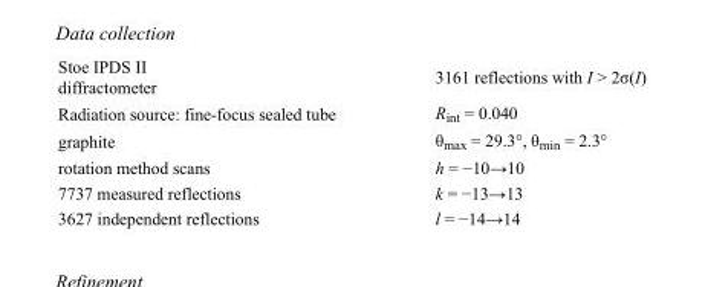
<table><tbody><tr><td>Stoe IPDS II diffractometer</td><td>3161 reflections with I &gt; 2σ(I)</td></tr><tr><td>Radiation source: fine-focus sealed tube</td><td>R<sub>int</sub> = 0.040</td></tr><tr><td>graphite</td><td>θ<sub>max</sub> = 29.3°, θ<sub>min</sub> = 2.3°</td></tr><tr><td>rotation method scans</td><td>h = −10→10</td></tr><tr><td>7737 measured reflections</td><td>k = −13→13</td></tr><tr><td>3627 independent reflections</td><td>l = −14→14</td></tr></tbody></table>